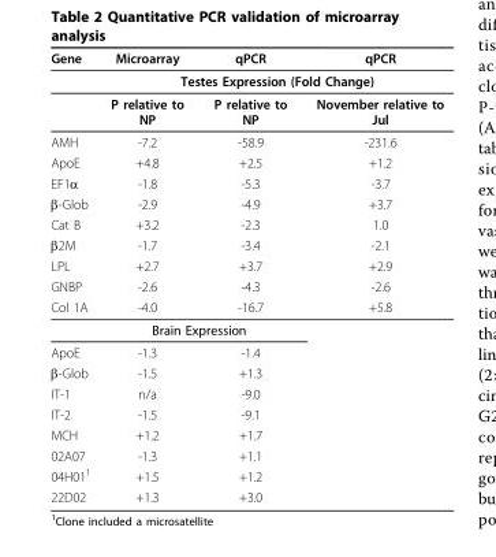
<table><thead><tr><td>Gene</td><td>Microarray</td><td>qPCR</td><td>qPCR</td></tr></thead><tbody><tr><td></td><td colspan="3">Testes Expression (Fold Change)</td></tr><tr><td></td><td>P relative to NP</td><td>P relative to NP</td><td>November relative to Jul</td></tr><tr><td>AMH</td><td>-7.2</td><td>-58.9</td><td>-231.6</td></tr><tr><td>ApoE</td><td>+4.8</td><td>+2.5</td><td>+1.2</td></tr><tr><td>EF1α</td><td>-1.8</td><td>-5.3</td><td>-3.7</td></tr><tr><td>β-Glob</td><td>-2.9</td><td>-4.9</td><td>+3.7</td></tr><tr><td>Cat B</td><td>+3.2</td><td>-2.3</td><td>1.0</td></tr><tr><td>β2M</td><td>-1.7</td><td>-3.4</td><td>-2.1</td></tr><tr><td>LPL</td><td>+2.7</td><td>+3.7</td><td>+2.9</td></tr><tr><td>GNBP</td><td>-2.6</td><td>-4.3</td><td>-2.6</td></tr><tr><td rowspan="2">Col 1A</td><td>-4.0</td><td>-16.7</td><td>+5.8</td></tr><tr><td colspan="2">Brain Expression</td><td></td></tr><tr><td>ApoE</td><td>-1.3</td><td>-1.4</td><td></td></tr><tr><td>β-Glob</td><td>-1.5</td><td>+1.3</td><td></td></tr><tr><td>IT-1</td><td>n/a</td><td>-9.0</td><td></td></tr><tr><td>IT-2</td><td>-1.5</td><td>-9.1</td><td></td></tr><tr><td>MCH</td><td>+1.2</td><td>+1.7</td><td></td></tr><tr><td>02A07</td><td>-1.3</td><td>+1.1</td><td></td></tr><tr><td>04H01<sup>1</sup></td><td>+1.5</td><td>+1.2</td><td></td></tr><tr><td>22D02</td><td>+1.3</td><td>+3.0</td><td></td></tr></tbody></table>